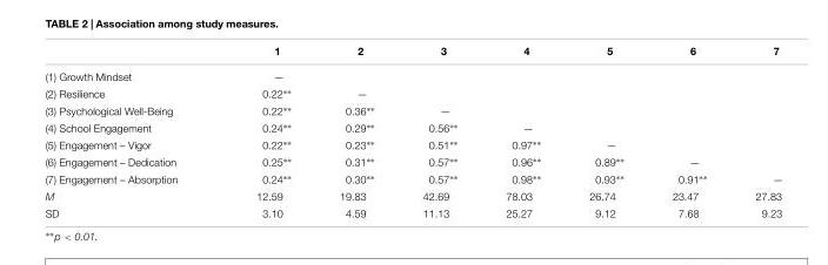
<table><thead><tr><td></td><td>1</td><td>2</td><td>3</td><td>4</td><td>5</td><td>6</td><td>7</td></tr></thead><tbody><tr><td>(1) Growth Mindset</td><td>—</td><td></td><td></td><td></td><td></td><td></td><td></td></tr><tr><td>(2) Resilience</td><td>0.22∗∗</td><td>—</td><td></td><td></td><td></td><td></td><td></td></tr><tr><td>(3) Psychological Well-Being</td><td>0.22∗∗</td><td>0.36∗∗</td><td>—</td><td></td><td></td><td></td><td></td></tr><tr><td>(4) School Engagement</td><td>0.24∗∗</td><td>0.29∗∗</td><td>0.56∗∗</td><td>—</td><td></td><td></td><td></td></tr><tr><td>(5) Engagement – Vigor</td><td>0.22∗∗</td><td>0.23∗∗</td><td>0.51∗∗</td><td>0.97∗∗</td><td>—</td><td></td><td></td></tr><tr><td>(6) Engagement – Dedication</td><td>0.25∗∗</td><td>0.31∗∗</td><td>0.57∗∗</td><td>0.96∗∗</td><td>0.89∗∗</td><td>—</td><td></td></tr><tr><td>(7) Engagement – Absorption</td><td>0.24∗∗</td><td>0.30∗∗</td><td>0.57∗∗</td><td>0.98∗∗</td><td>0.93∗∗</td><td>0.91∗∗</td><td>—</td></tr><tr><td>M</td><td>12.59</td><td>19.83</td><td>42.69</td><td>78.03</td><td>26.74</td><td>23.47</td><td>27.83</td></tr><tr><td>SD</td><td>3.10</td><td>4.59</td><td>11.13</td><td>25.27</td><td>9.12</td><td>7.68</td><td>9.23</td></tr></tbody></table>